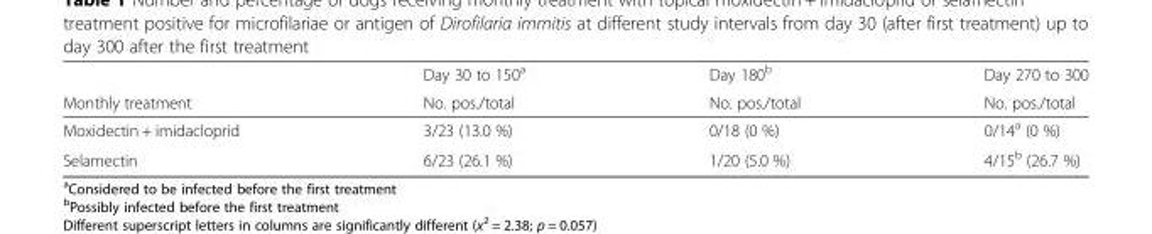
<table><thead><tr><td rowspan="2">Monthly treatment</td><td rowspan="2">Day 30 to 150<sup>a</sup> No. pos./total</td><td rowspan="2">Day 180<sup>b</sup> No. pos./total</td><td rowspan="2">Day 270 to 300 No. pos./total</td></tr><tr></tr></thead><tbody><tr><td>Moxidectin + imidacloprid</td><td>3/23 (13.0 %)</td><td>0/18 (0 %)</td><td>0/14<sup>a</sup> (0 %)</td></tr><tr><td>Selamectin</td><td>6/23 (26.1 %)</td><td>1/20 (5.0 %)</td><td>4/15<sup>b</sup> (26.7 %)</td></tr></tbody></table>